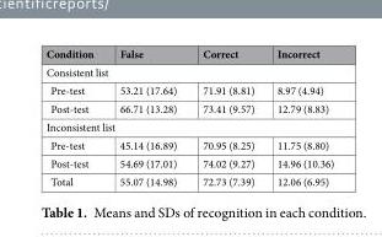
<table><thead><tr><td>Condition</td><td>False</td><td>Correct</td><td>Incorrect</td></tr></thead><tbody><tr><td colspan="4">Consistent list</td></tr><tr><td>Pre-test</td><td>53.21 (17.64)</td><td>71.91 (8.81)</td><td>8.97 (4.94)</td></tr><tr><td>Post-test</td><td>66.71 (13.28)</td><td>73.41 (9.57)</td><td>12.79 (8.83)</td></tr><tr><td colspan="4">Inconsistent list</td></tr><tr><td>Pre-test</td><td>45.14 (16.89)</td><td>70.95 (8.25)</td><td>11.75 (8.80)</td></tr><tr><td>Post-test</td><td>54.69 (17.01)</td><td>74.02 (9.27)</td><td>14.96 (10.36)</td></tr><tr><td>Total</td><td>55.07 (14.98)</td><td>72.73 (7.39)</td><td>12.06 (6.95)</td></tr></tbody></table>